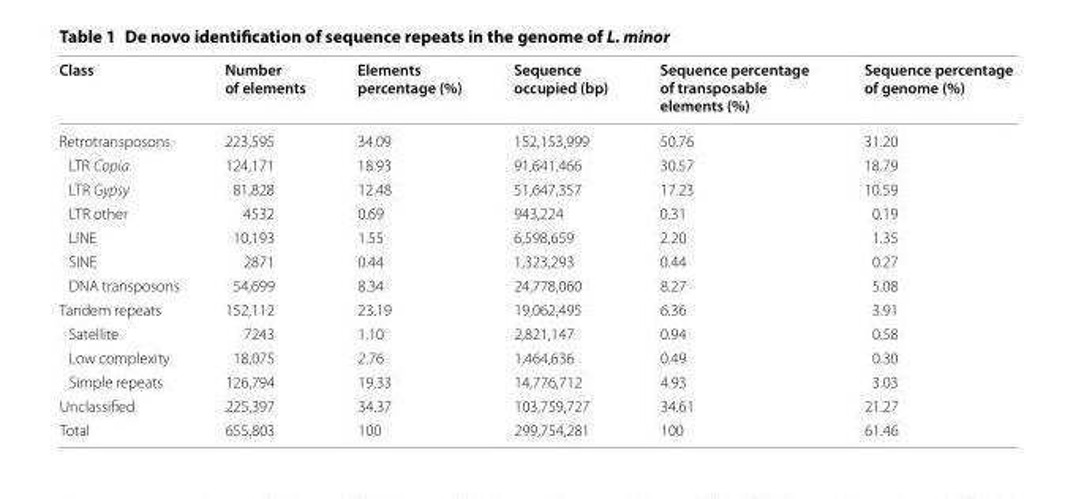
<table><thead><tr><td>Class</td><td>Number of elements</td><td>Elements percentage (%)</td><td>Sequence occupied (bp)</td><td>Sequence percentage of transposable elements (%)</td><td>Sequence percentage of genome (%)</td></tr></thead><tbody><tr><td>Retrotransposons</td><td>223,595</td><td>34.09</td><td>152,153,999</td><td>50.76</td><td>31.20</td></tr><tr><td>LTR Copia</td><td>124,171</td><td>18.93</td><td>91,641,466</td><td>30.57</td><td>18.79</td></tr><tr><td>LTR Gypsy</td><td>81,828</td><td>12.48</td><td>51,647,357</td><td>17.23</td><td>10.59</td></tr><tr><td>LTR other</td><td>4532</td><td>0.69</td><td>943,224</td><td>0.31</td><td>0.19</td></tr><tr><td>LINE</td><td>10,193</td><td>1.55</td><td>6,598,659</td><td>2.20</td><td>1.35</td></tr><tr><td>SINE</td><td>2871</td><td>0.44</td><td>1,323,293</td><td>0.44</td><td>0.27</td></tr><tr><td>DNA transposons</td><td>54,699</td><td>8.34</td><td>24,778,060</td><td>8.27</td><td>5.08</td></tr><tr><td>Tandem repeats</td><td>152,112</td><td>23.19</td><td>19,062,495</td><td>6.36</td><td>3.91</td></tr><tr><td>Satellite</td><td>7243</td><td>1.10</td><td>2,821,147</td><td>0.94</td><td>0.58</td></tr><tr><td>Low complexity</td><td>18,075</td><td>2.76</td><td>1,464,636</td><td>0.49</td><td>0.30</td></tr><tr><td>Simple repeats</td><td>126,794</td><td>19.33</td><td>14,776,712</td><td>4.93</td><td>3.03</td></tr><tr><td>Unclassified</td><td>225,397</td><td>34.37</td><td>103,759,727</td><td>34.61</td><td>21.27</td></tr><tr><td>Total</td><td>655,803</td><td>100</td><td>299,754,281</td><td>100</td><td>61.46</td></tr></tbody></table>